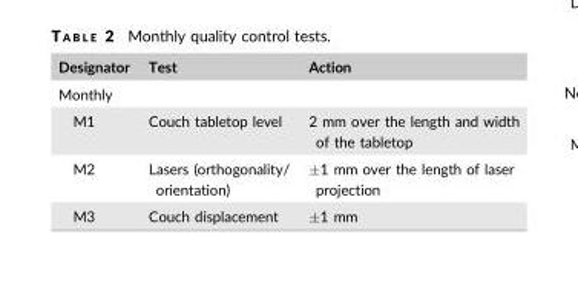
<table><thead><tr><td>Designator</td><td>Test</td><td>Action</td></tr></thead><tbody><tr><td colspan="3">Monthly</td></tr><tr><td>M1</td><td>Couch tabletop level</td><td>2 mm over the length and width of the tabletop</td></tr><tr><td>M2</td><td>Lasers (orthogonality/ orientation)</td><td>±1 mm over the length of laser projection</td></tr><tr><td>M3</td><td>Couch displacement</td><td>±1 mm</td></tr></tbody></table>